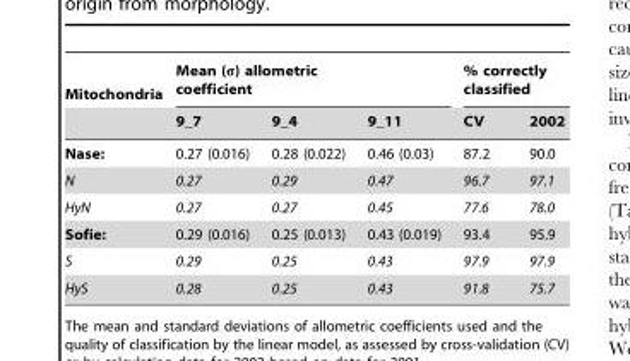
<table><thead><tr><td rowspan="2">Mitochondria</td><td colspan="3">Mean (σ) allometric coefficient</td><td colspan="2">% correctly classified</td></tr><tr><td>9_7</td><td>9_4</td><td>9_11</td><td>CV</td><td>2002</td></tr></thead><tbody><tr><td>Nase:</td><td>0.27 (0.016)</td><td>0.28 (0.022)</td><td>0.46 (0.03)</td><td>87.2</td><td>90.0</td></tr><tr><td>N</td><td>0.27</td><td>0.29</td><td>0.47</td><td>96.7</td><td>97.1</td></tr><tr><td>HyN</td><td>0.27</td><td>0.27</td><td>0.45</td><td>77.6</td><td>78.0</td></tr><tr><td>Sofie:</td><td>0.29 (0.016)</td><td>0.25 (0.013)</td><td>0.43 (0.019)</td><td>93.4</td><td>95.9</td></tr><tr><td>S</td><td>0.29</td><td>0.25</td><td>0.43</td><td>97.9</td><td>97.9</td></tr><tr><td>HyS</td><td>0.28</td><td>0.25</td><td>0.43</td><td>91.8</td><td>75.7</td></tr></tbody></table>